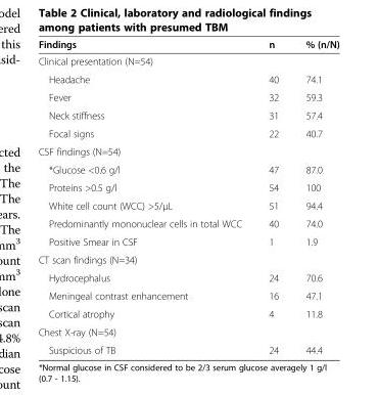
<table><thead><tr><td>Findings</td><td>n</td><td>% (n/N)</td></tr></thead><tbody><tr><td colspan="3">Clinical presentation (N=54)</td></tr><tr><td>Headache</td><td>40</td><td>74.1</td></tr><tr><td>Fever</td><td>32</td><td>59.3</td></tr><tr><td>Neck stiffness</td><td>31</td><td>57.4</td></tr><tr><td>Focal signs</td><td>22</td><td>40.7</td></tr><tr><td colspan="3">CSF findings (N=54)</td></tr><tr><td>*Glucose &lt;0.6 g/l</td><td>47</td><td>87.0</td></tr><tr><td>Proteins &gt;0.5 g/l</td><td>54</td><td>100</td></tr><tr><td>White cell count (WCC) &gt;5/μL</td><td>51</td><td>94.4</td></tr><tr><td>Predominantly mononuclear cells in total WCC</td><td>40</td><td>74.0</td></tr><tr><td>Positive Smear in CSF</td><td>1</td><td>1.9</td></tr><tr><td colspan="3">CT scan findings (N=34)</td></tr><tr><td>Hydrocephalus</td><td>24</td><td>70.6</td></tr><tr><td>Meningeal contrast enhancement</td><td>16</td><td>47.1</td></tr><tr><td>Cortical atrophy</td><td>4</td><td>11.8</td></tr><tr><td colspan="3">Chest X-ray (N=54)</td></tr><tr><td>Suspicious of TB</td><td>24</td><td>44.4</td></tr></tbody></table>